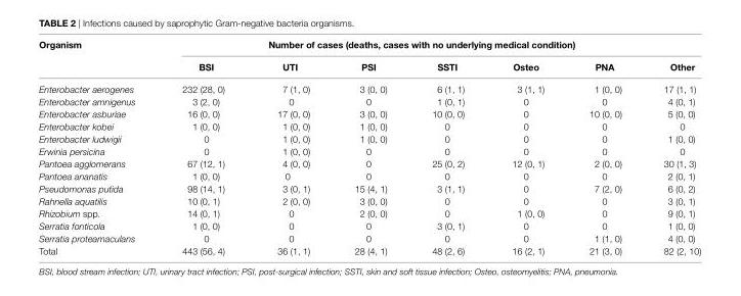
<table><thead><tr><td rowspan="2">Organism</td><td colspan="7">Number of cases (deaths, cases with no underlying medical condition)</td></tr><tr><td>BSi</td><td>Uti</td><td>PSi</td><td>SSti</td><td>Osteo</td><td>PNa</td><td>Other</td></tr></thead><tbody><tr><td>Enterobacter aerogenes</td><td>232 (28, 0)</td><td>7 (1, 0)</td><td>3 (0, 0)</td><td>6 (1, 1)</td><td>3 (1, 1)</td><td>1 (0, 0)</td><td>17 (1, 1)</td></tr><tr><td>Enterobacter amnigenus</td><td>3 (2, 0)</td><td>0</td><td>0</td><td>1 (0, 1)</td><td>0</td><td>0</td><td>4 (0, 1)</td></tr><tr><td>Enterobacter asburiae</td><td>16 (0, 0)</td><td>17 (0, 0)</td><td>3 (0, 0)</td><td>10 (0, 0)</td><td>0</td><td>10 (0, 0)</td><td>5 (0, 0)</td></tr><tr><td>Enterobacter kobei</td><td>1 (0, 0)</td><td>1 (0, 0)</td><td>1 (0, 0)</td><td>0</td><td>0</td><td>0</td><td>0</td></tr><tr><td>Enterobacter ludwigii</td><td>0</td><td>1 (0, 0)</td><td>1 (0, 0)</td><td>0</td><td>0</td><td>0</td><td>1 (0, 0)</td></tr><tr><td>Erwinia persicina</td><td>0</td><td>1 (0, 0)</td><td>0</td><td>0</td><td>0</td><td>0</td><td>0</td></tr><tr><td>Pantoea agglomerans</td><td>67 (12, 1)</td><td>4 (0, 0)</td><td>0</td><td>25 (0, 2)</td><td>12 (0, 1)</td><td>2 (0, 0)</td><td>30 (1, 3)</td></tr><tr><td>Pantoea ananatis</td><td>1 (0, 0)</td><td>0</td><td>0</td><td>0</td><td>0</td><td>0</td><td>2 (0, 1)</td></tr><tr><td>Pseudomonas putida</td><td>98 (14, 1)</td><td>3 (0, 1)</td><td>15 (4, 1)</td><td>3 (1, 1)</td><td>0</td><td>7 (2, 0)</td><td>6 (0, 2)</td></tr><tr><td>Rahnella aquatilis</td><td>10 (0, 1)</td><td>2 (0, 0)</td><td>3 (0, 0)</td><td>0</td><td>0</td><td>0</td><td>3 (0, 1)</td></tr><tr><td>Rhizobium spp.</td><td>14 (0, 1)</td><td>0</td><td>2 (0, 0)</td><td>0</td><td>1 (0, 0)</td><td>0</td><td>9 (0, 1)</td></tr><tr><td>Serratia fonticola</td><td>1 (0, 0)</td><td>0</td><td>0</td><td>3 (0, 1)</td><td>0</td><td>0</td><td>1 (0, 0)</td></tr><tr><td>Serratia proteamaculans</td><td>0</td><td>0</td><td>0</td><td>0</td><td>0</td><td>1 (1, 0)</td><td>4 (0, 0)</td></tr><tr><td>Total</td><td>443 (56, 4)</td><td>36 (1, 1)</td><td>28 (4, 1)</td><td>48 (2, 6)</td><td>16 (2, 1)</td><td>21 (3, 0)</td><td>82 (2, 10)</td></tr></tbody></table>